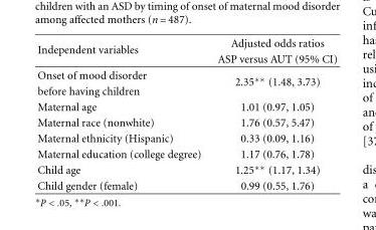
<table><thead><tr><td rowspan="2">Independent variables</td><td rowspan="2">Adjusted odds ratios ASP versus AUT (95% CI)</td></tr><tr></tr></thead><tbody><tr><td>Onset of mood disorder</td><td rowspan="2">2.35∗∗ (1.48, 3.73)</td></tr><tr><td>before having children</td></tr><tr><td>Maternal age</td><td>1.01 (0.97, 1.05)</td></tr><tr><td>Maternal race (nonwhite)</td><td>1.76 (0.57, 5.47)</td></tr><tr><td>Maternal ethnicity (Hispanic)</td><td>0.33 (0.09, 1.16)</td></tr><tr><td>Maternal education (college degree)</td><td>1.17 (0.76, 1.78)</td></tr><tr><td>Child age</td><td>1.25∗∗ (1.17, 1.34)</td></tr><tr><td>Child gender (female)</td><td>0.99 (0.55, 1.76)</td></tr></tbody></table>